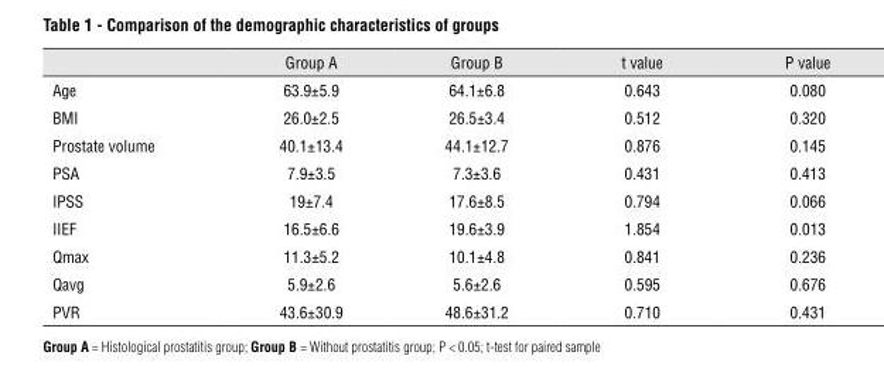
<table><thead><tr><td></td><td>Group A</td><td>Group B</td><td>t value</td><td>P value</td></tr></thead><tbody><tr><td>Age</td><td>63.9±5.9</td><td>64.1±6.8</td><td>0.643</td><td>0.080</td></tr><tr><td>BMI</td><td>26.0±2.5</td><td>26.5±3.4</td><td>0.512</td><td>0.320</td></tr><tr><td>Prostate volume</td><td>40.1±13.4</td><td>44.1±12.7</td><td>0.876</td><td>0.145</td></tr><tr><td>PSA</td><td>7.9±3.5</td><td>7.3±3.6</td><td>0.431</td><td>0.413</td></tr><tr><td>IPSS</td><td>19±7.4</td><td>17.6±8.5</td><td>0.794</td><td>0.066</td></tr><tr><td>IIEF</td><td>16.5±6.6</td><td>19.6±3.9</td><td>1.854</td><td>0.013</td></tr><tr><td>Qmax</td><td>11.3±5.2</td><td>10.1±4.8</td><td>0.841</td><td>0.236</td></tr><tr><td>Qavg</td><td>5.9±2.6</td><td>5.6±2.6</td><td>0.595</td><td>0.676</td></tr><tr><td>PVR</td><td>43.6±30.9</td><td>48.6±31.2</td><td>0.710</td><td>0.431</td></tr></tbody></table>